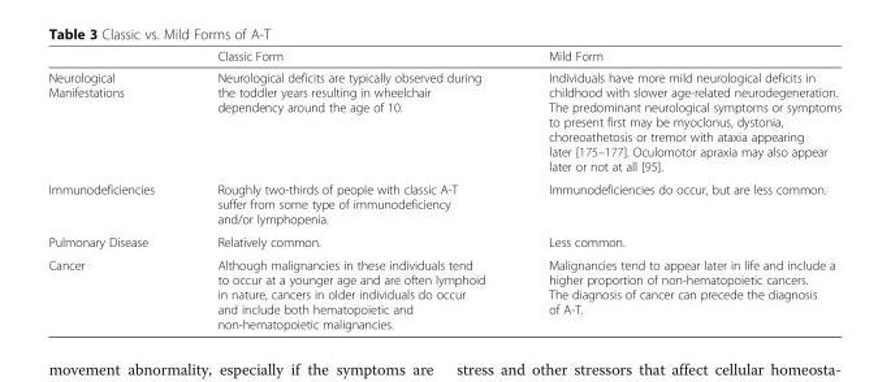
<table><thead><tr><td></td><td>Classic Form</td><td>Mild Form</td></tr></thead><tbody><tr><td>Neurological Manifestations</td><td>Neurological deficits are typically observed during the toddler years resulting in wheelchair dependency around the age of 10.</td><td>Individuals have more mild neurological deficits in childhood with slower age-related neurodegeneration. The predominant neurological symptoms or symptoms to present first may be myoclonus, dystonia, choreoathetosis or tremor with ataxia appearing later [175–177]. Oculomotor apraxia may also appear later or not at all [95].</td></tr><tr><td>Immunodeficiencies</td><td>Roughly two-thirds of people with classic A-T suffer from some type of immunodeficiency and/or lymphopenia.</td><td>Immunodeficiencies do occur, but are less common.</td></tr><tr><td>Pulmonary Disease</td><td>Relatively common.</td><td>Less common.</td></tr><tr><td>Cancer</td><td>Although malignancies in these individuals tend to occur at a younger age and are often lymphoid in nature, cancers in older individuals do occur and include both hematopoietic and non-hematopoietic malignancies.</td><td>Malignancies tend to appear later in life and include a higher proportion of non-hematopoietic cancers. The diagnosis of cancer can precede the diagnosis of A-T.</td></tr></tbody></table>